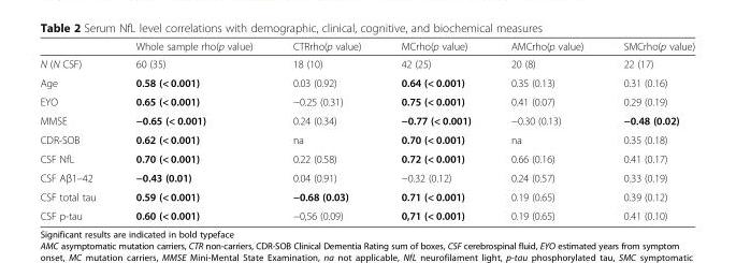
<table><thead><tr><td></td><td>Whole sample rho(p value)</td><td>CTRrho(p value)</td><td>MCrho(p value)</td><td>AMCrho(p value)</td><td>SMCrho(p value)</td></tr></thead><tbody><tr><td>N (N CSF)</td><td>60 (35)</td><td>18 (10)</td><td>42 (25)</td><td>20 (8)</td><td>22 (17)</td></tr><tr><td>Age</td><td>0.58 (&lt; 0.001)</td><td>0.03 (0.92)</td><td>0.64 (&lt; 0.001)</td><td>0.35 (0.13)</td><td>0.31 (0.16)</td></tr><tr><td>EYO</td><td>0.65 (&lt; 0.001)</td><td>−0.25 (0.31)</td><td>0.75 (&lt; 0.001)</td><td>0.41 (0.07)</td><td>0.29 (0.19)</td></tr><tr><td>MMSE</td><td>−0.65 (&lt; 0.001)</td><td>0.24 (0.34)</td><td>−0.77 (&lt; 0.001)</td><td>−0.30 (0.13)</td><td>−0.48 (0.02)</td></tr><tr><td>CDR-SOB</td><td>0.62 (&lt; 0.001)</td><td>na</td><td>0.70 (&lt; 0.001)</td><td>na</td><td>0.35 (0.18)</td></tr><tr><td>CSF NfL</td><td>0.70 (&lt; 0.001)</td><td>0.22 (0.58)</td><td>0.72 (&lt; 0.001)</td><td>0.66 (0.16)</td><td>0.41 (0.17)</td></tr><tr><td>CSF Aβ1–42</td><td>−0.43 (0.01)</td><td>0.04 (0.91)</td><td>−0.32 (0.12)</td><td>0.24 (0.57)</td><td>0.33 (0.19)</td></tr><tr><td>CSF total tau</td><td>0.59 (&lt; 0.001)</td><td>−0.68 (0.03)</td><td>0.71 (&lt; 0.001)</td><td>0.19 (0.65)</td><td>0.39 (0.12)</td></tr><tr><td>CSF p-tau</td><td>0.60 (&lt; 0.001)</td><td>−0,56 (0.09)</td><td>0,71 (&lt; 0.001)</td><td>0.19 (0.65)</td><td>0.41 (0.10)</td></tr></tbody></table>